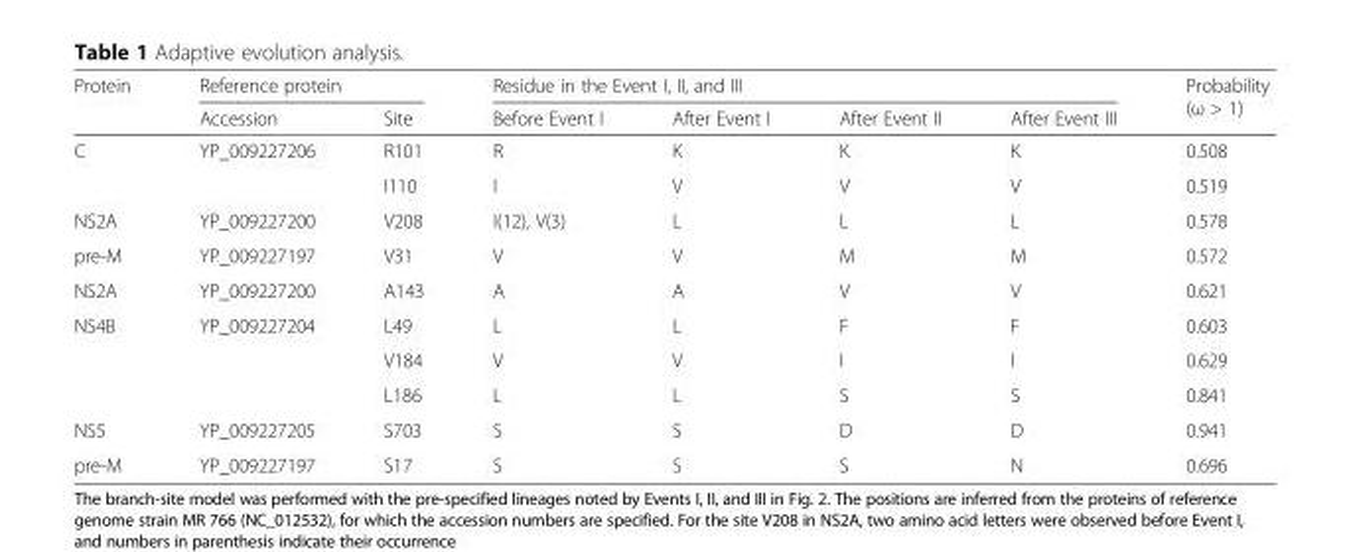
<table><thead><tr><td rowspan="2">Protein</td><td colspan="2">Reference protein</td><td colspan="4">Residue in the Event I, II, and III</td><td rowspan="2">Probability (ω &gt; 1)</td></tr><tr><td>Accession</td><td>Site</td><td>Before Event I</td><td>After Event I</td><td>After Event II</td><td>After Event III</td></tr></thead><tbody><tr><td rowspan="2">C</td><td rowspan="2">YP_009227206</td><td>R101</td><td>R</td><td>K</td><td>K</td><td>K</td><td>0.508</td></tr><tr><td>I110</td><td>I</td><td>V</td><td>V</td><td>V</td><td>0.519</td></tr><tr><td>NS2A</td><td>YP_009227200</td><td>V208</td><td>I(12), V(3)</td><td>L</td><td>L</td><td>L</td><td>0.578</td></tr><tr><td>pre-M</td><td>YP_009227197</td><td>V31</td><td>V</td><td>V</td><td>M</td><td>M</td><td>0.572</td></tr><tr><td>NS2A</td><td>YP_009227200</td><td>A143</td><td>A</td><td>A</td><td>V</td><td>V</td><td>0.621</td></tr><tr><td rowspan="3">NS4B</td><td rowspan="3">YP_009227204</td><td>L49</td><td>L</td><td>L</td><td>F</td><td>F</td><td>0.603</td></tr><tr><td>V184</td><td>V</td><td>V</td><td>I</td><td>I</td><td>0.629</td></tr><tr><td>L186</td><td>L</td><td>L</td><td>S</td><td>S</td><td>0.841</td></tr><tr><td>NS5</td><td>YP_009227205</td><td>S703</td><td>S</td><td>S</td><td>D</td><td>D</td><td>0.941</td></tr><tr><td>pre-M</td><td>YP_009227197</td><td>S17</td><td>S</td><td>S</td><td>S</td><td>N</td><td>0.696</td></tr></tbody></table>